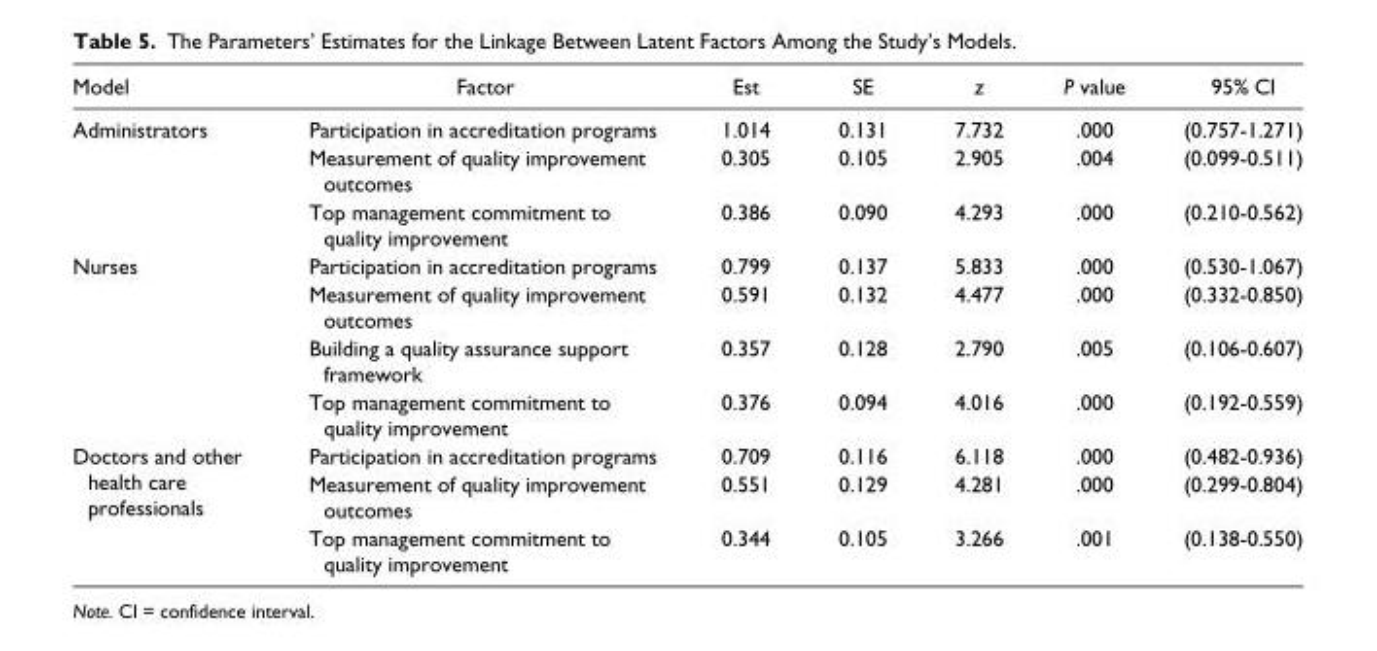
<table><thead><tr><td>Model</td><td>Factor</td><td>Est</td><td>SE</td><td>z</td><td>P value</td><td>95% CI</td></tr></thead><tbody><tr><td rowspan="3">Administrators</td><td>Participation in accreditation programs</td><td>1.014</td><td>0.131</td><td>7.732</td><td>.000</td><td>(0.757-1.271)</td></tr><tr><td>Measurement of quality improvement outcomes</td><td>0.305</td><td>0.105</td><td>2.905</td><td>.004</td><td>(0.099-0.511)</td></tr><tr><td>Top management commitment to quality improvement</td><td>0.386</td><td>0.090</td><td>4.293</td><td>.000</td><td>(0.210-0.562)</td></tr><tr><td rowspan="4">Nurses</td><td>Participation in accreditation programs</td><td>0.799</td><td>0.137</td><td>5.833</td><td>.000</td><td>(0.530-1.067)</td></tr><tr><td>Measurement of quality improvement outcomes</td><td>0.591</td><td>0.132</td><td>4.477</td><td>.000</td><td>(0.332-0.850)</td></tr><tr><td>Building a quality assurance support framework</td><td>0.357</td><td>0.128</td><td>2.790</td><td>.005</td><td>(0.106-0.607)</td></tr><tr><td>Top management commitment to quality improvement</td><td>0.376</td><td>0.094</td><td>4.016</td><td>.000</td><td>(0.192-0.559)</td></tr><tr><td rowspan="3">Doctors and other health care professionals</td><td>Participation in accreditation programs</td><td>0.709</td><td>0.116</td><td>6.118</td><td>.000</td><td>(0.482-0.936)</td></tr><tr><td>Measurement of quality improvement outcomes</td><td>0.551</td><td>0.129</td><td>4.281</td><td>.000</td><td>(0.299-0.804)</td></tr><tr><td>Top management commitment to quality improvement</td><td>0.344</td><td>0.105</td><td>3.266</td><td>.001</td><td>(0.138-0.550)</td></tr></tbody></table>